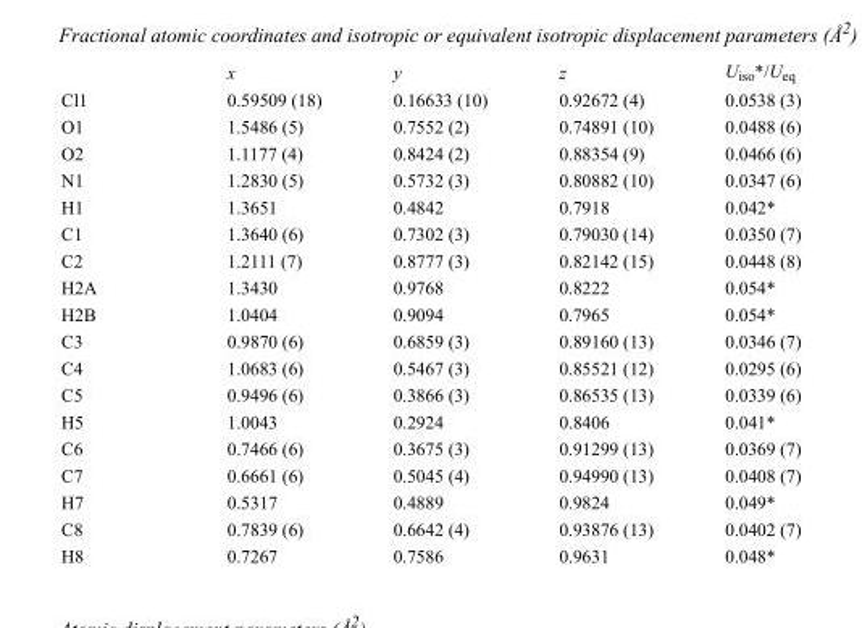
<table><thead><tr><td></td><td>x</td><td>y</td><td>z</td><td>U<sub>iso</sub>*/U<sub>eq</sub></td></tr></thead><tbody><tr><td>Cl1</td><td>0.59509 (18)</td><td>0.16633 (10)</td><td>0.92672 (4)</td><td>0.0538 (3)</td></tr><tr><td>O1</td><td>1.5486 (5)</td><td>0.7552 (2)</td><td>0.74891 (10)</td><td>0.0488 (6)</td></tr><tr><td>O2</td><td>1.1177 (4)</td><td>0.8424 (2)</td><td>0.88354 (9)</td><td>0.0466 (6)</td></tr><tr><td>N1</td><td>1.2830 (5)</td><td>0.5732 (3)</td><td>0.80882 (10)</td><td>0.0347 (6)</td></tr><tr><td>H1</td><td>1.3651</td><td>0.4842</td><td>0.7918</td><td>0.042*</td></tr><tr><td>C1</td><td>1.3640 (6)</td><td>0.7302 (3)</td><td>0.79030 (14)</td><td>0.0350 (7)</td></tr><tr><td>C2</td><td>1.2111 (7)</td><td>0.8777 (3)</td><td>0.82142 (15)</td><td>0.0448 (8)</td></tr><tr><td>H2A</td><td>1.3430</td><td>0.9768</td><td>0.8222</td><td>0.054*</td></tr><tr><td>H2B</td><td>1.0404</td><td>0.9094</td><td>0.7965</td><td>0.054*</td></tr><tr><td>C3</td><td>0.9870 (6)</td><td>0.6859 (3)</td><td>0.89160 (13)</td><td>0.0346 (7)</td></tr><tr><td>C4</td><td>1.0683 (6)</td><td>0.5467 (3)</td><td>0.85521 (12)</td><td>0.0295 (6)</td></tr><tr><td>C5</td><td>0.9496 (6)</td><td>0.3866 (3)</td><td>0.86535 (13)</td><td>0.0339 (6)</td></tr><tr><td>H5</td><td>1.0043</td><td>0.2924</td><td>0.8406</td><td>0.041*</td></tr><tr><td>C6</td><td>0.7466 (6)</td><td>0.3675 (3)</td><td>0.91299 (13)</td><td>0.0369 (7)</td></tr><tr><td>C7</td><td>0.6661 (6)</td><td>0.5045 (4)</td><td>0.94990 (13)</td><td>0.0408 (7)</td></tr><tr><td>H7</td><td>0.5317</td><td>0.4889</td><td>0.9824</td><td>0.049*</td></tr><tr><td>C8</td><td>0.7839 (6)</td><td>0.6642 (4)</td><td>0.93876 (13)</td><td>0.0402 (7)</td></tr><tr><td>H8</td><td>0.7267</td><td>0.7586</td><td>0.9631</td><td>0.048*</td></tr></tbody></table>